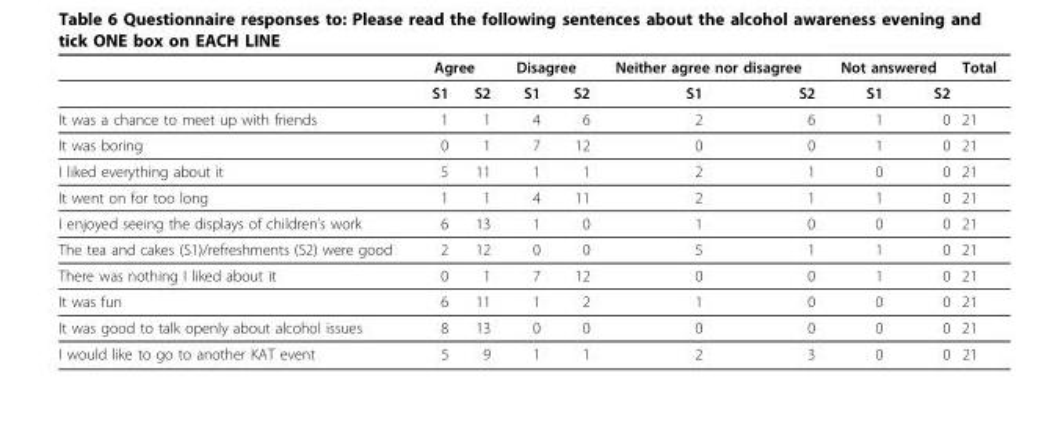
<table><thead><tr><td rowspan="2"></td><td colspan="2">Agree</td><td colspan="2">Disagree</td><td colspan="2">Neither agree nor disagree</td><td colspan="2">Not answered</td><td rowspan="2">Total</td></tr><tr><td>S1</td><td>S2</td><td>S1</td><td>S2</td><td>S1</td><td>S2</td><td>S1</td><td>S2</td></tr></thead><tbody><tr><td>It was a chance to meet up with friends</td><td>1</td><td>1</td><td>4</td><td>6</td><td>2</td><td>6</td><td>1</td><td>0</td><td>21</td></tr><tr><td>It was boring</td><td>0</td><td>1</td><td>7</td><td>12</td><td>0</td><td>0</td><td>1</td><td>0</td><td>21</td></tr><tr><td>I liked everything about it</td><td>5</td><td>11</td><td>1</td><td>1</td><td>2</td><td>1</td><td>0</td><td>0</td><td>21</td></tr><tr><td>It went on for too long</td><td>1</td><td>1</td><td>4</td><td>11</td><td>2</td><td>1</td><td>1</td><td>0</td><td>21</td></tr><tr><td>I enjoyed seeing the displays of children’s work</td><td>6</td><td>13</td><td>1</td><td>0</td><td>1</td><td>0</td><td>0</td><td>0</td><td>21</td></tr><tr><td>The tea and cakes (S1)/refreshments (S2) were good</td><td>2</td><td>12</td><td>0</td><td>0</td><td>5</td><td>1</td><td>1</td><td>0</td><td>21</td></tr><tr><td>There was nothing I liked about it</td><td>0</td><td>1</td><td>7</td><td>12</td><td>0</td><td>0</td><td>1</td><td>0</td><td>21</td></tr><tr><td>It was fun</td><td>6</td><td>11</td><td>1</td><td>2</td><td>1</td><td>0</td><td>0</td><td>0</td><td>21</td></tr><tr><td>It was good to talk openly about alcohol issues</td><td>8</td><td>13</td><td>0</td><td>0</td><td>0</td><td>0</td><td>0</td><td>0</td><td>21</td></tr><tr><td>I would like to go to another KAT event</td><td>5</td><td>9</td><td>1</td><td>1</td><td>2</td><td>3</td><td>0</td><td>0</td><td>21</td></tr></tbody></table>